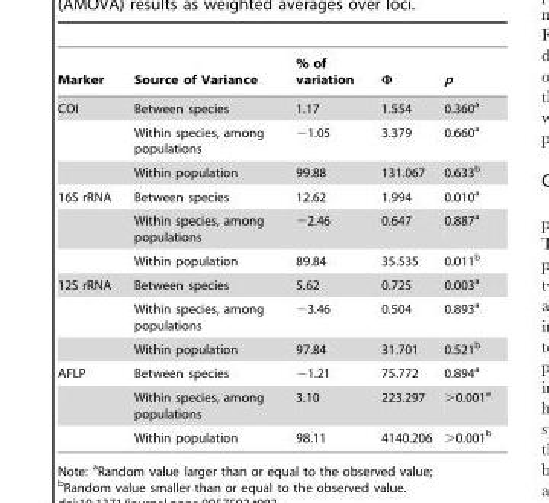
<table><thead><tr><td>Marker</td><td>Source of Variance</td><td>% of variation</td><td>Φ</td><td>p</td></tr></thead><tbody><tr><td rowspan="3">COI</td><td>Between species</td><td>1.17</td><td>1.554</td><td>0.360<sup>a</sup></td></tr><tr><td>Within species, among populations</td><td>−1.05</td><td>3.379</td><td>0.660<sup>a</sup></td></tr><tr><td>Within population</td><td>99.88</td><td>131.067</td><td>0.633<sup>b</sup></td></tr><tr><td rowspan="3">16S rRNA</td><td>Between species</td><td>12.62</td><td>1.994</td><td>0.010<sup>a</sup></td></tr><tr><td>Within species, among populations</td><td>−2.46</td><td>0.647</td><td>0.887<sup>a</sup></td></tr><tr><td>Within population</td><td>89.84</td><td>35.535</td><td>0.011<sup>b</sup></td></tr><tr><td rowspan="3">12S rRNA</td><td>Between species</td><td>5.62</td><td>0.725</td><td>0.003<sup>a</sup></td></tr><tr><td>Within species, among populations</td><td>−3.46</td><td>0.504</td><td>0.893<sup>a</sup></td></tr><tr><td>Within population</td><td>97.84</td><td>31.701</td><td>0.521<sup>b</sup></td></tr><tr><td rowspan="3">AFLP</td><td>Between species</td><td>−1.21</td><td>75.772</td><td>0.894<sup>a</sup></td></tr><tr><td>Within species, among populations</td><td>3.10</td><td>223.297</td><td>&gt;0.001<sup>a</sup></td></tr><tr><td>Within population</td><td>98.11</td><td>4140.206</td><td>&gt;0.001<sup>b</sup></td></tr></tbody></table>